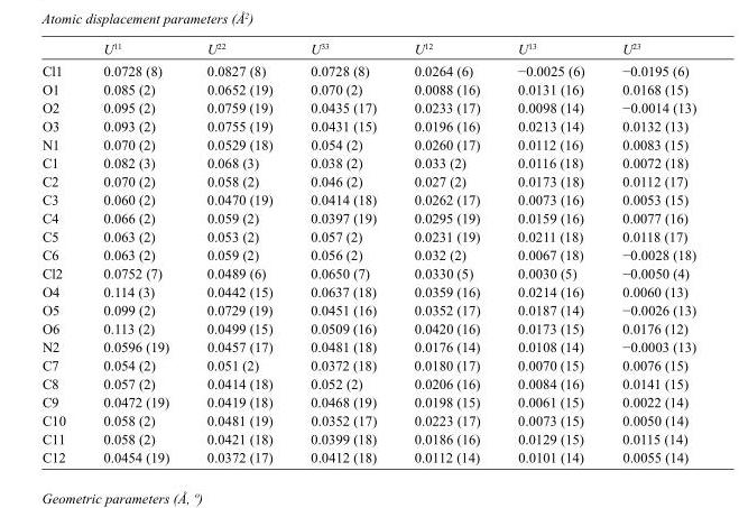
<table><thead><tr><td></td><td>U<sup>11</sup></td><td>U<sup>22</sup></td><td>U<sup>33</sup></td><td>U<sup>12</sup></td><td>U<sup>13</sup></td><td>U<sup>23</sup></td></tr></thead><tbody><tr><td>Cl1</td><td>0.0728 (8)</td><td>0.0827 (8)</td><td>0.0728 (8)</td><td>0.0264 (6)</td><td>−0.0025 (6)</td><td>−0.0195 (6)</td></tr><tr><td>O1</td><td>0.085 (2)</td><td>0.0652 (19)</td><td>0.070 (2)</td><td>0.0088 (16)</td><td>0.0131 (16)</td><td>0.0168 (15)</td></tr><tr><td>O2</td><td>0.095 (2)</td><td>0.0759 (19)</td><td>0.0435 (17)</td><td>0.0233 (17)</td><td>0.0098 (14)</td><td>−0.0014 (13)</td></tr><tr><td>O3</td><td>0.093 (2)</td><td>0.0755 (19)</td><td>0.0431 (15)</td><td>0.0196 (16)</td><td>0.0213 (14)</td><td>0.0132 (13)</td></tr><tr><td>N1</td><td>0.070 (2)</td><td>0.0529 (18)</td><td>0.054 (2)</td><td>0.0260 (17)</td><td>0.0112 (16)</td><td>0.0083 (15)</td></tr><tr><td>C1</td><td>0.082 (3)</td><td>0.068 (3)</td><td>0.038 (2)</td><td>0.033 (2)</td><td>0.0116 (18)</td><td>0.0072 (18)</td></tr><tr><td>C2</td><td>0.070 (2)</td><td>0.058 (2)</td><td>0.046 (2)</td><td>0.027 (2)</td><td>0.0173 (18)</td><td>0.0112 (17)</td></tr><tr><td>C3</td><td>0.060 (2)</td><td>0.0470 (19)</td><td>0.0414 (18)</td><td>0.0262 (17)</td><td>0.0073 (16)</td><td>0.0053 (15)</td></tr><tr><td>C4</td><td>0.066 (2)</td><td>0.059 (2)</td><td>0.0397 (19)</td><td>0.0295 (19)</td><td>0.0159 (16)</td><td>0.0077 (16)</td></tr><tr><td>C5</td><td>0.063 (2)</td><td>0.053 (2)</td><td>0.057 (2)</td><td>0.0231 (19)</td><td>0.0211 (18)</td><td>0.0118 (17)</td></tr><tr><td>C6</td><td>0.063 (2)</td><td>0.059 (2)</td><td>0.056 (2)</td><td>0.032 (2)</td><td>0.0067 (18)</td><td>−0.0028 (18)</td></tr><tr><td>Cl2</td><td>0.0752 (7)</td><td>0.0489 (6)</td><td>0.0650 (7)</td><td>0.0330 (5)</td><td>0.0030 (5)</td><td>−0.0050 (4)</td></tr><tr><td>O4</td><td>0.114 (3)</td><td>0.0442 (15)</td><td>0.0637 (18)</td><td>0.0359 (16)</td><td>0.0214 (16)</td><td>0.0060 (13)</td></tr><tr><td>O5</td><td>0.099 (2)</td><td>0.0729 (19)</td><td>0.0451 (16)</td><td>0.0352 (17)</td><td>0.0187 (14)</td><td>−0.0026 (13)</td></tr><tr><td>O6</td><td>0.113 (2)</td><td>0.0499 (15)</td><td>0.0509 (16)</td><td>0.0420 (16)</td><td>0.0173 (15)</td><td>0.0176 (12)</td></tr><tr><td>N2</td><td>0.0596 (19)</td><td>0.0457 (17)</td><td>0.0481 (18)</td><td>0.0176 (14)</td><td>0.0108 (14)</td><td>−0.0003 (13)</td></tr><tr><td>C7</td><td>0.054 (2)</td><td>0.051 (2)</td><td>0.0372 (18)</td><td>0.0180 (17)</td><td>0.0070 (15)</td><td>0.0076 (15)</td></tr><tr><td>C8</td><td>0.057 (2)</td><td>0.0414 (18)</td><td>0.052 (2)</td><td>0.0206 (16)</td><td>0.0084 (16)</td><td>0.0141 (15)</td></tr><tr><td>C9</td><td>0.0472 (19)</td><td>0.0419 (18)</td><td>0.0468 (19)</td><td>0.0198 (15)</td><td>0.0061 (15)</td><td>0.0022 (14)</td></tr><tr><td>C10</td><td>0.058 (2)</td><td>0.0481 (19)</td><td>0.0352 (17)</td><td>0.0223 (17)</td><td>0.0073 (15)</td><td>0.0050 (14)</td></tr><tr><td>C11</td><td>0.058 (2)</td><td>0.0421 (18)</td><td>0.0399 (18)</td><td>0.0186 (16)</td><td>0.0129 (15)</td><td>0.0115 (14)</td></tr><tr><td>C12</td><td>0.0454 (19)</td><td>0.0372 (17)</td><td>0.0412 (18)</td><td>0.0112 (14)</td><td>0.0101 (14)</td><td>0.0055 (14)</td></tr></tbody></table>